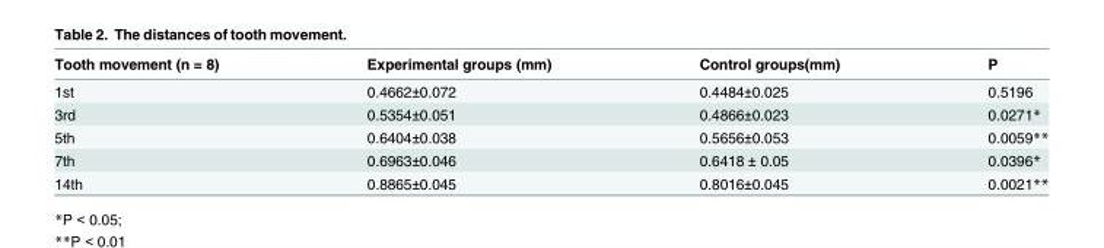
<table><thead><tr><td>Tooth movement (n = 8)</td><td>Experimental groups (mm)</td><td>Control groups(mm)</td><td>P</td></tr></thead><tbody><tr><td>1st</td><td>0.4662±0.072</td><td>0.4484±0.025</td><td>0.5196</td></tr><tr><td>3rd</td><td>0.5354±0.051</td><td>0.4866±0.023</td><td>0.0271*</td></tr><tr><td>5th</td><td>0.6404±0.038</td><td>0.5656±0.053</td><td>0.0059**</td></tr><tr><td>7th</td><td>0.6963±0.046</td><td>0.6418 ± 0.05</td><td>0.0396*</td></tr><tr><td>14th</td><td>0.8865±0.045</td><td>0.8016±0.045</td><td>0.0021**</td></tr></tbody></table>